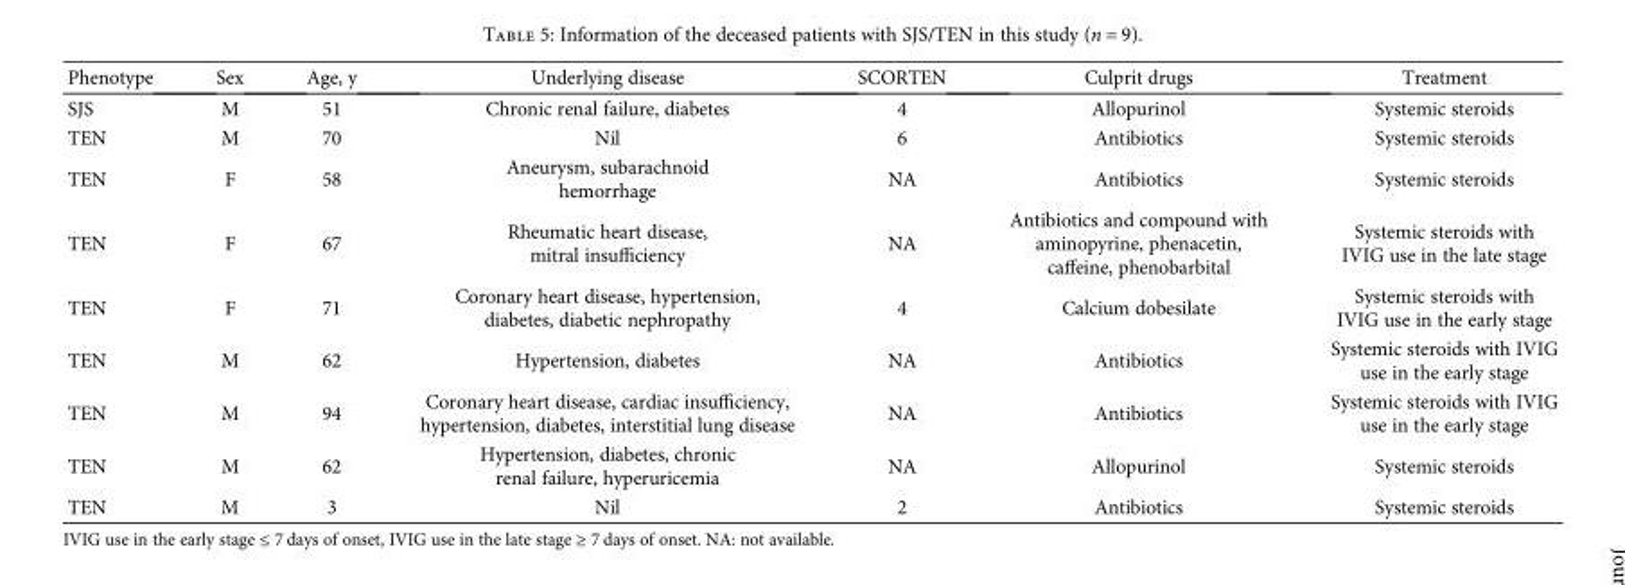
<table><thead><tr><td>Phenotype</td><td>Sex</td><td>Age, y</td><td>Underlying disease</td><td>SCORTEN</td><td>Culprit drugs</td><td>Treatment</td></tr></thead><tbody><tr><td>SJS</td><td>M</td><td>51</td><td>Chronic renal failure, diabetes</td><td>4</td><td>Allopurinol</td><td>Systemic steroids</td></tr><tr><td>TEN</td><td>M</td><td>70</td><td>Nil</td><td>6</td><td>Antibiotics</td><td>Systemic steroids</td></tr><tr><td>TEN</td><td>F</td><td>58</td><td>Aneurysm, subarachnoid hemorrhage</td><td>NA</td><td>Antibiotics</td><td>Systemic steroids</td></tr><tr><td>TEN</td><td>F</td><td>67</td><td>Rheumatic heart disease, mitral insufficiency</td><td>NA</td><td>Antibiotics and compound with aminopyrine, phenacetin, caffeine, phenobarbital</td><td>Systemic steroids with IVIG use in the late stage</td></tr><tr><td>TEN</td><td>F</td><td>71</td><td>Coronary heart disease, hypertension, diabetes, diabetic nephropathy</td><td>4</td><td>Calcium dobesilate</td><td>Systemic steroids with IVIG use in the early stage</td></tr><tr><td>TEN</td><td>M</td><td>62</td><td>Hypertension, diabetes</td><td>NA</td><td>Antibiotics</td><td>Systemic steroids with IVIG use in the early stage</td></tr><tr><td>TEN</td><td>M</td><td>94</td><td>Coronary heart disease, cardiac insufficiency, hypertension, diabetes, interstitial lung disease</td><td>NA</td><td>Antibiotics</td><td>Systemic steroids with IVIG use in the early stage</td></tr><tr><td>TEN</td><td>M</td><td>62</td><td>Hypertension, diabetes, chronic renal failure, hyperuricemia</td><td>NA</td><td>Allopurinol</td><td>Systemic steroids</td></tr><tr><td>TEN</td><td>M</td><td>3</td><td>Nil</td><td>2</td><td>Antibiotics</td><td>Systemic steroids</td></tr></tbody></table>